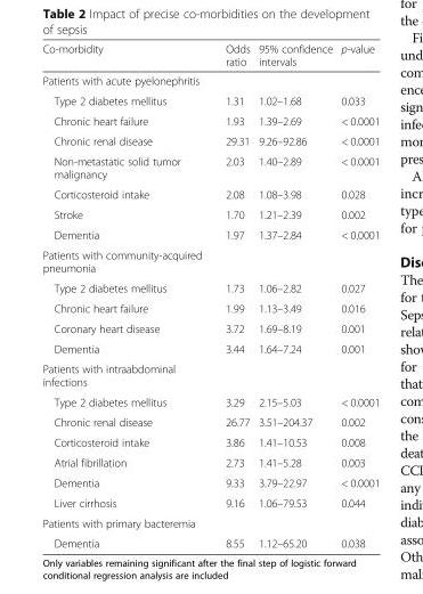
<table><thead><tr><td>Co-morbidity</td><td>Odds ratio</td><td>95% confidence intervals</td><td>p-value</td></tr></thead><tbody><tr><td colspan="4">Patients with acute pyelonephritis</td></tr><tr><td>Type 2 diabetes mellitus</td><td>1.31</td><td>1.02–1.68</td><td>0.033</td></tr><tr><td>Chronic heart failure</td><td>1.93</td><td>1.39–2.69</td><td>&lt; 0.0001</td></tr><tr><td>Chronic renal disease</td><td>29.31</td><td>9.26–92.86</td><td>&lt; 0.0001</td></tr><tr><td>Non-metastatic solid tumor malignancy</td><td>2.03</td><td>1.40–2.89</td><td>&lt; 0.0001</td></tr><tr><td>Corticosteroid intake</td><td>2.08</td><td>1.08–3.98</td><td>0.028</td></tr><tr><td>Stroke</td><td>1.70</td><td>1.21–2.39</td><td>0.002</td></tr><tr><td>Dementia</td><td>1.97</td><td>1.37–2.84</td><td>&lt; 0.0001</td></tr><tr><td colspan="4">Patients with community-acquired pneumonia</td></tr><tr><td>Type 2 diabetes mellitus</td><td>1.73</td><td>1.06–2.82</td><td>0.027</td></tr><tr><td>Chronic heart failure</td><td>1.99</td><td>1.13–3.49</td><td>0.016</td></tr><tr><td>Coronary heart disease</td><td>3.72</td><td>1.69–8.19</td><td>0.001</td></tr><tr><td>Dementia</td><td>3.44</td><td>1.64–7.24</td><td>0.001</td></tr><tr><td colspan="4">Patients with intraabdominal infections</td></tr><tr><td>Type 2 diabetes mellitus</td><td>3.29</td><td>2.15–5.03</td><td>&lt; 0.0001</td></tr><tr><td>Chronic renal disease</td><td>26.77</td><td>3.51–204.37</td><td>0.002</td></tr><tr><td>Corticosteroid intake</td><td>3.86</td><td>1.41–10.53</td><td>0.008</td></tr><tr><td>Atrial fibrillation</td><td>2.73</td><td>1.41–5.28</td><td>0.003</td></tr><tr><td>Dementia</td><td>9.33</td><td>3.79–22.97</td><td>&lt; 0.0001</td></tr><tr><td>Liver cirrhosis</td><td>9.16</td><td>1.06–79.53</td><td>0.044</td></tr><tr><td colspan="4">Patients with primary bacteremia</td></tr><tr><td>Dementia</td><td>8.55</td><td>1.12–65.20</td><td>0.038</td></tr></tbody></table>